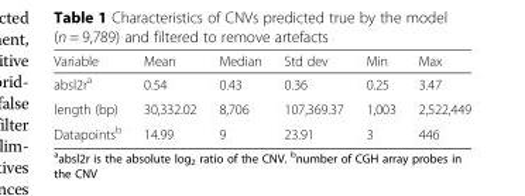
<table><thead><tr><td>Variable</td><td>Mean</td><td>Median</td><td>Std dev</td><td>Min</td><td>Max</td></tr></thead><tbody><tr><td>absl2r<sup>a</sup></td><td>0.54</td><td>0.43</td><td>0.36</td><td>0.25</td><td>3.47</td></tr><tr><td>length (bp)</td><td>30,332.02</td><td>8,706</td><td>107,369.37</td><td>1,003</td><td>2,522,449</td></tr><tr><td>Datapoints<sup>b</sup></td><td>14.99</td><td>9</td><td>23.91</td><td>3</td><td>446</td></tr></tbody></table>